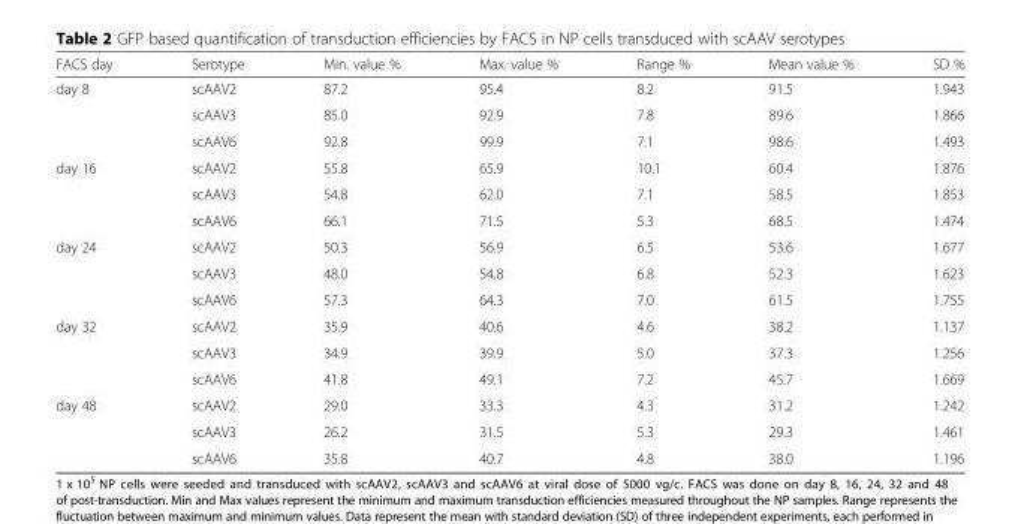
<table><thead><tr><td>FACS day</td><td>Serotype</td><td>Min. value %</td><td>Max. value %</td><td>Range %</td><td>Mean value %</td><td>SD %</td></tr></thead><tbody><tr><td rowspan="3">day 8</td><td>scAAV2</td><td>87.2</td><td>95.4</td><td>8.2</td><td>91.5</td><td>1.943</td></tr><tr><td>scAAV3</td><td>85.0</td><td>92.9</td><td>7.8</td><td>89.6</td><td>1.866</td></tr><tr><td>scAAV6</td><td>92.8</td><td>99.9</td><td>7.1</td><td>98.6</td><td>1.493</td></tr><tr><td rowspan="3">day 16</td><td>scAAV2</td><td>55.8</td><td>65.9</td><td>10.1</td><td>60.4</td><td>1.876</td></tr><tr><td>scAAV3</td><td>54.8</td><td>62.0</td><td>7.1</td><td>58.5</td><td>1.853</td></tr><tr><td>scAAV6</td><td>66.1</td><td>71.5</td><td>5.3</td><td>68.5</td><td>1.474</td></tr><tr><td rowspan="3">day 24</td><td>scAAV2</td><td>50.3</td><td>56.9</td><td>6.5</td><td>53.6</td><td>1.677</td></tr><tr><td>scAAV3</td><td>48.0</td><td>54.8</td><td>6.8</td><td>52.3</td><td>1.623</td></tr><tr><td>scAAV6</td><td>57.3</td><td>64.3</td><td>7.0</td><td>61.5</td><td>1.755</td></tr><tr><td rowspan="3">day 32</td><td>scAAV2</td><td>35.9</td><td>40.6</td><td>4.6</td><td>38.2</td><td>1.137</td></tr><tr><td>scAAV3</td><td>34.9</td><td>39.9</td><td>5.0</td><td>37.3</td><td>1.256</td></tr><tr><td>scAAV6</td><td>41.8</td><td>49.1</td><td>7.2</td><td>45.7</td><td>1.669</td></tr><tr><td rowspan="3">day 48</td><td>scAAV2</td><td>29.0</td><td>33.3</td><td>4.3</td><td>31.2</td><td>1.242</td></tr><tr><td>scAAV3</td><td>26.2</td><td>31.5</td><td>5.3</td><td>29.3</td><td>1.461</td></tr><tr><td>scAAV6</td><td>35.8</td><td>40.7</td><td>4.8</td><td>38.0</td><td>1.196</td></tr></tbody></table>